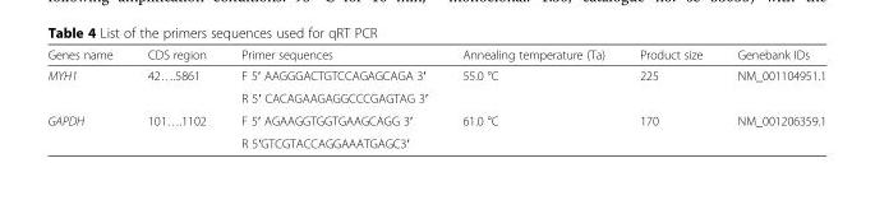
<table><thead><tr><td>Genes name</td><td>CDS region</td><td>Primer sequences</td><td>Annealing temperature (Ta)</td><td>Product size</td><td>Genebank IDs</td></tr></thead><tbody><tr><td rowspan="2">MYH1</td><td rowspan="2">42….5861</td><td>F 5′ AAGGGACTGTCCAGAGCAGA 3′</td><td rowspan="2">55.0 °C</td><td rowspan="2">225</td><td rowspan="2">NM_001104951.1</td></tr><tr><td>R 5′ CACAGAAGAGGCCCGAGTAG 3′</td></tr><tr><td rowspan="2">GAPDH</td><td rowspan="2">101….1102</td><td>F 5′ AGAAGGTGGTGAAGCAGG 3′</td><td rowspan="2">61.0 °C</td><td rowspan="2">170</td><td rowspan="2">NM_001206359.1</td></tr><tr><td>R 5′GTCGTACCAGGAAATGAGC3′</td></tr></tbody></table>